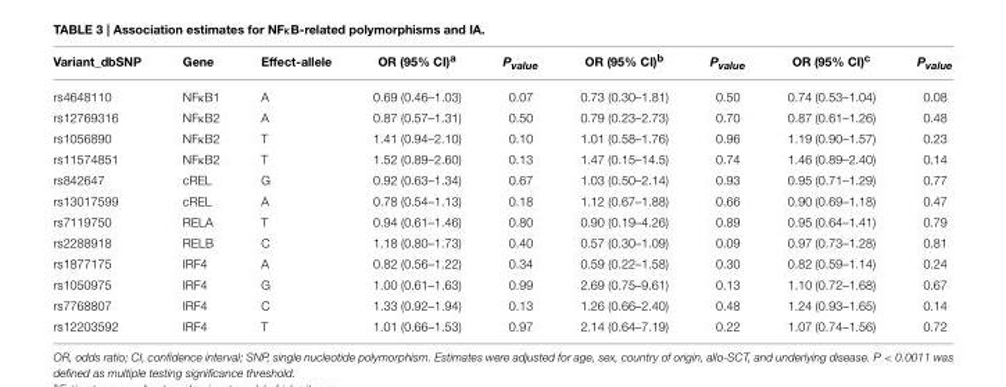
<table><thead><tr><td>Variant_dbSNP</td><td>Gene</td><td>Effect-allele</td><td>OR (95% CI)<sup>a</sup></td><td>P<sub>value</sub></td><td>OR (95% CI)<sup>b</sup></td><td>P<sub>value</sub></td><td>OR (95% CI)<sup>c</sup></td><td>P<sub>value</sub></td></tr></thead><tbody><tr><td>rs4648110</td><td>NFκB1</td><td>A</td><td>0.69 (0.46–1.03)</td><td>0.07</td><td>0.73 (0.30–1.81)</td><td>0.50</td><td>0.74 (0.53–1.04)</td><td>0.08</td></tr><tr><td>rs12769316</td><td>NFκB2</td><td>A</td><td>0.87 (0.57–1.31)</td><td>0.50</td><td>0.79 (0.23–2.73)</td><td>0.70</td><td>0.87 (0.61–1.26)</td><td>0.48</td></tr><tr><td>rs1056890</td><td>NFκB2</td><td>T</td><td>1.41 (0.94–2.10)</td><td>0.10</td><td>1.01 (0.58–1.76)</td><td>0.96</td><td>1.19 (0.90–1.57)</td><td>0.23</td></tr><tr><td>rs11574851</td><td>NFκB2</td><td>T</td><td>1.52 (0.89–2.60)</td><td>0.13</td><td>1.47 (0.15–14.5)</td><td>0.74</td><td>1.46 (0.89–2.40)</td><td>0.14</td></tr><tr><td>rs842647</td><td>cREL</td><td>G</td><td>0.92 (0.63–1.34)</td><td>0.67</td><td>1.03 (0.50–2.14)</td><td>0.93</td><td>0.95 (0.71–1.29)</td><td>0.77</td></tr><tr><td>rs13017599</td><td>cREL</td><td>A</td><td>0.78 (0.54–1.13)</td><td>0.18</td><td>1.12 (0.67–1.88)</td><td>0.66</td><td>0.90 (0.69–1.18)</td><td>0.47</td></tr><tr><td>rs7119750</td><td>RELA</td><td>T</td><td>0.94 (0.61–1.46)</td><td>0.80</td><td>0.90 (0.19–4.26)</td><td>0.89</td><td>0.95 (0.64–1.41)</td><td>0.79</td></tr><tr><td>rs2288918</td><td>RELB</td><td>C</td><td>1.18 (0.80–1.73)</td><td>0.40</td><td>0.57 (0.30–1.09)</td><td>0.09</td><td>0.97 (0.73–1.28)</td><td>0.81</td></tr><tr><td>rs1877175</td><td>IRF4</td><td>A</td><td>0.82 (0.56–1.22)</td><td>0.34</td><td>0.59 (0.22–1.58)</td><td>0.30</td><td>0.82 (0.59–1.14)</td><td>0.24</td></tr><tr><td>rs1050975</td><td>IRF4</td><td>G</td><td>1.00 (0.61–1.63)</td><td>0.99</td><td>2.69 (0.75–9.61)</td><td>0.13</td><td>1.10 (0.72–1.68)</td><td>0.67</td></tr><tr><td>rs7768807</td><td>IRF4</td><td>C</td><td>1.33 (0.92–1.94)</td><td>0.13</td><td>1.26 (0.66–2.40)</td><td>0.48</td><td>1.24 (0.93–1.65)</td><td>0.14</td></tr><tr><td>rs12203592</td><td>IRF4</td><td>T</td><td>1.01 (0.66–1.53)</td><td>0.97</td><td>2.14 (0.64–7.19)</td><td>0.22</td><td>1.07 (0.74–1.56)</td><td>0.72</td></tr></tbody></table>